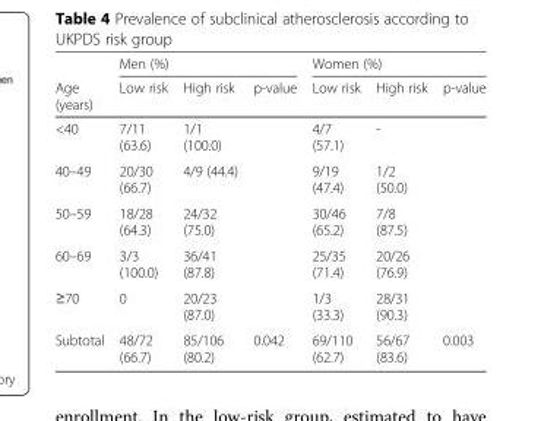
<table><thead><tr><td rowspan="2">Age (years)</td><td colspan="3">Men (%)</td><td colspan="3">Women (%)</td></tr><tr><td>Low risk</td><td>High risk</td><td>p-value</td><td>Low risk</td><td>High risk</td><td>p-value</td></tr></thead><tbody><tr><td>&lt;40</td><td>7/11 (63.6)</td><td>1/1 (100.0)</td><td></td><td>4/7 (57.1)</td><td>-</td><td></td></tr><tr><td>40–49</td><td>20/30 (66.7)</td><td>4/9 (44.4)</td><td></td><td>9/19 (47.4)</td><td>1/2 (50.0)</td><td></td></tr><tr><td>50–59</td><td>18/28 (64.3)</td><td>24/32 (75.0)</td><td></td><td>30/46 (65.2)</td><td>7/8 (87.5)</td><td></td></tr><tr><td>60–69</td><td>3/3 (100.0)</td><td>36/41 (87.8)</td><td></td><td>25/35 (71.4)</td><td>20/26 (76.9)</td><td></td></tr><tr><td>≥70</td><td>0</td><td>20/23 (87.0)</td><td></td><td>1/3 (33.3)</td><td>28/31 (90.3)</td><td></td></tr><tr><td>Subtotal</td><td>48/72 (66.7)</td><td>85/106 (80.2)</td><td>0.042</td><td>69/110 (62.7)</td><td>56/67 (83.6)</td><td>0.003</td></tr></tbody></table>